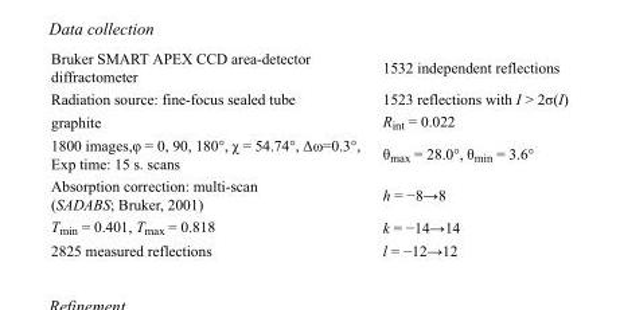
<table><tbody><tr><td>Bruker SMART APEX CCD area-detector diffractometer</td><td>1532 independent reflections</td></tr><tr><td>Radiation source: fine-focus sealed tube</td><td>1523 reflections with I &gt; 2σ(I)</td></tr><tr><td>graphite</td><td>R<sub>int</sub> = 0.022</td></tr><tr><td>1800 images,φ = 0, 90, 180°, χ = 54.74°, Δω=0.3°, Exp time: 15 s. scans</td><td>θ<sub>max</sub> = 28.0°, θ<sub>min</sub> = 3.6°</td></tr><tr><td>Absorption correction: multi-scan (SADABS; Bruker, 2001)</td><td>h = −8→8</td></tr><tr><td>T<sub>min</sub> = 0.401, T<sub>max</sub> = 0.818</td><td>k = −14→14</td></tr><tr><td>2825 measured reflections</td><td>l = −12→12</td></tr></tbody></table>